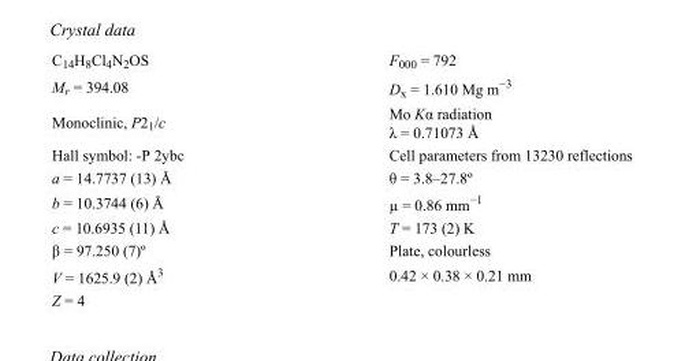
<table><tbody><tr><td>C<sub>14</sub>H<sub>8</sub>Cl<sub>4</sub>N<sub>2</sub>OS</td><td>F000 = 792</td></tr><tr><td>M<sub>r</sub> = 394.08</td><td>D<sub>x</sub> = 1.610 Mg m<sup>−3</sup></td></tr><tr><td>Monoclinic, P2<sub>1</sub>/c</td><td>Mo Kα radiation λ = 0.71073 Å</td></tr><tr><td>Hall symbol: -P 2ybc</td><td>Cell parameters from 13230 reflections</td></tr><tr><td>a = 14.7737 (13) Å</td><td>θ = 3.8–27.8º</td></tr><tr><td>b = 10.3744 (6) Å</td><td>µ = 0.86 mm<sup>−1</sup></td></tr><tr><td>c = 10.6935 (11) Å</td><td>T = 173 (2) K</td></tr><tr><td>β = 97.250 (7)º</td><td>Plate, colourless</td></tr><tr><td>V = 1625.9 (2) Å<sup>3</sup></td><td>0.42 × 0.38 × 0.21 mm</td></tr><tr><td>Z = 4</td><td></td></tr></tbody></table>